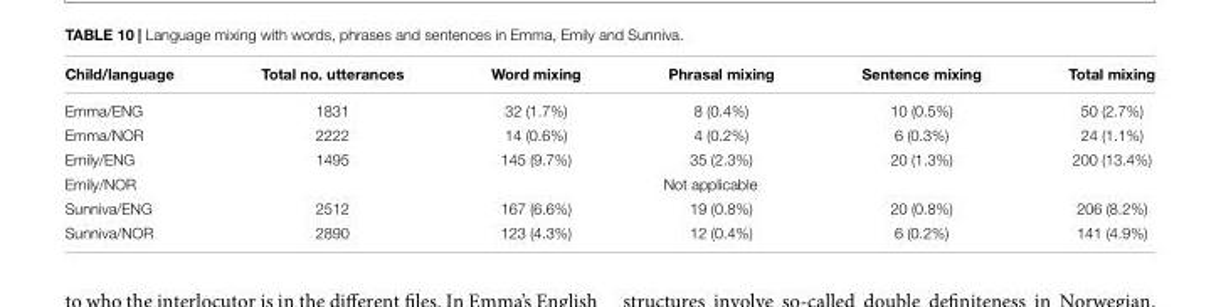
<table><thead><tr><td>Child/language</td><td>Total no. utterances</td><td>Word mixing</td><td>Phrasal mixing</td><td>Sentence mixing</td><td>Total mixing</td></tr></thead><tbody><tr><td>Emma/ENG</td><td>1831</td><td>32 (1.7%)</td><td>8 (0.4%)</td><td>10 (0.5%)</td><td>50 (2.7%)</td></tr><tr><td>Emma/NOR</td><td>2222</td><td>14 (0.6%)</td><td>4 (0.2%)</td><td>6 (0.3%)</td><td>24 (1.1%)</td></tr><tr><td>Emily/ENG</td><td>1495</td><td>145 (9.7%)</td><td>35 (2.3%)</td><td>20 (1.3%)</td><td>200 (13.4%)</td></tr><tr><td>Emily/NOR</td><td colspan="5">Not applicable</td></tr><tr><td>Sunniva/ENG</td><td>2512</td><td>167 (6.6%)</td><td>19 (0.8%)</td><td>20 (0.8%)</td><td>206 (8.2%)</td></tr><tr><td>Sunniva/NOR</td><td>2890</td><td>123 (4.3%)</td><td>12 (0.4%)</td><td>6 (0.2%)</td><td>141 (4.9%)</td></tr></tbody></table>